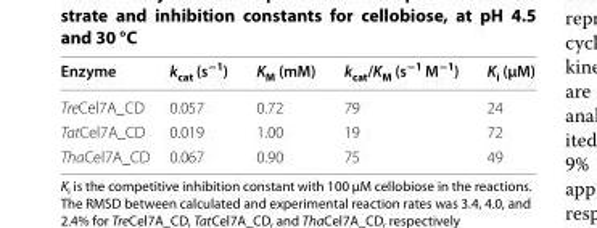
<table><thead><tr><td>Enzyme</td><td>k<sub>cat</sub> (s<sup>−1</sup>)</td><td>K<sub>M</sub> (mM)</td><td>k<sub>cat</sub>/K<sub>M</sub> (s<sup>−1</sup> M<sup>−1</sup>)</td><td>K<sub>i</sub> (µM)</td></tr></thead><tbody><tr><td>TreCel7A_CD</td><td>0.057</td><td>0.72</td><td>79</td><td>24</td></tr><tr><td>TatCel7A_CD</td><td>0.019</td><td>1.00</td><td>19</td><td>72</td></tr><tr><td>ThaCel7A_CD</td><td>0.067</td><td>0.90</td><td>75</td><td>49</td></tr></tbody></table>